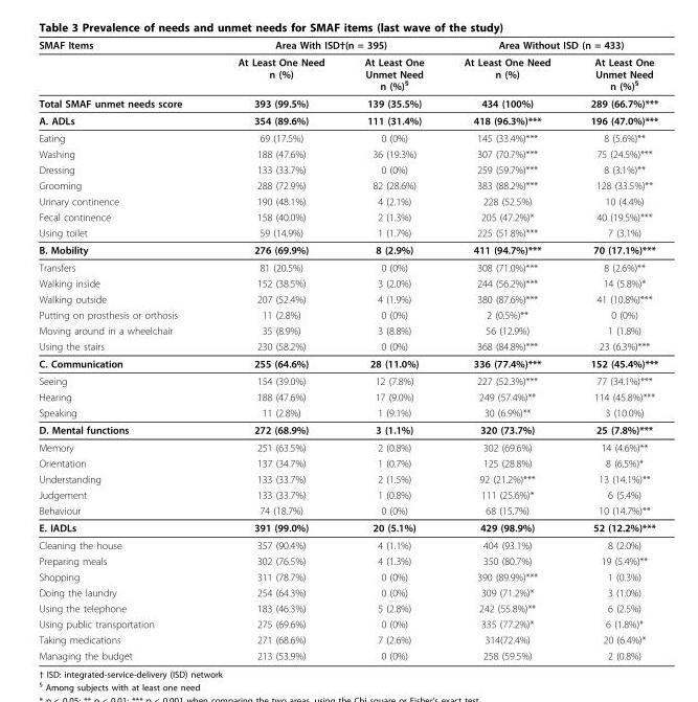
<table><thead><tr><td rowspan="2">SMAF Items</td><td colspan="2">Area With ISD†(n = 395)</td><td colspan="2">Area Without ISD (n = 433)</td></tr><tr><td>At Least One Need n (%)</td><td>At Least One Unmet Need n (%)<sup>§</sup></td><td>At Least One Need n (%)</td><td>At Least One Unmet Need n (%)<sup>§</sup></td></tr></thead><tbody><tr><td>Total SMAF unmet needs score</td><td>393 (99.5%)</td><td>139 (35.5%)</td><td>434 (100%)</td><td>289 (66.7%)***</td></tr><tr><td>A. ADLs</td><td>354 (89.6%)</td><td>111 (31.4%)</td><td>418 (96.3%)***</td><td>196 (47.0%)***</td></tr><tr><td>Eating</td><td>69 (17.5%)</td><td>0 (0%)</td><td>145 (33.4%)***</td><td>8 (5.6%)**</td></tr><tr><td>Washing</td><td>188 (47.6%)</td><td>36 (19.3%)</td><td>307 (70.7%)***</td><td>75 (24.5%)***</td></tr><tr><td>Dressing</td><td>133 (33.7%)</td><td>0 (0%)</td><td>259 (59.7%)***</td><td>8 (3.1%)**</td></tr><tr><td>Grooming</td><td>288 (72.9%)</td><td>82 (28.6%)</td><td>383 (88.2%)***</td><td>128 (33.5%)**</td></tr><tr><td>Urinary continence</td><td>190 (48.1%)</td><td>4 (2.1%)</td><td>228 (52.5%)</td><td>10 (4.4%)</td></tr><tr><td>Fecal continence</td><td>158 (40.0%)</td><td>2 (1.3%)</td><td>205 (47.2%)*</td><td>40 (19.5%)***</td></tr><tr><td>Using toilet</td><td>59 (14.9%)</td><td>1 (1.7%)</td><td>225 (51.8%)***</td><td>7 (3.1%)</td></tr><tr><td>B. Mobility</td><td>276 (69.9%)</td><td>8 (2.9%)</td><td>411 (94.7%)***</td><td>70 (17.1%)***</td></tr><tr><td>Transfers</td><td>81 (20.5%)</td><td>0 (0%)</td><td>308 (71.0%)***</td><td>8 (2.6%)**</td></tr><tr><td>Walking inside</td><td>152 (38.5%)</td><td>3 (2.0%)</td><td>244 (56.2%)***</td><td>14 (5.8%)*</td></tr><tr><td>Walking outside</td><td>207 (52.4%)</td><td>4 (1.9%)</td><td>380 (87.6%)***</td><td>41 (10.8%)***</td></tr><tr><td>Putting on prosthesis or orthosis</td><td>11 (2.8%)</td><td>0 (0%)</td><td>2 (0.5%)**</td><td>0 (0%)</td></tr><tr><td>Moving around in a wheelchair</td><td>35 (8.9%)</td><td>3 (8.8%)</td><td>56 (12.9%)</td><td>1 (1.8%)</td></tr><tr><td>Using the stairs</td><td>230 (58.2%)</td><td>0 (0%)</td><td>368 (84.8%)***</td><td>23 (6.3%)***</td></tr><tr><td>C. Communication</td><td>255 (64.6%)</td><td>28 (11.0%)</td><td>336 (77.4%)***</td><td>152 (45.4%)***</td></tr><tr><td>Seeing</td><td>154 (39.0%)</td><td>12 (7.8%)</td><td>227 (52.3%)***</td><td>77 (34.1%)***</td></tr><tr><td>Hearing</td><td>188 (47.6%)</td><td>17 (9.0%)</td><td>249 (57.4%)**</td><td>114 (45.8%)***</td></tr><tr><td>Speaking</td><td>11 (2.8%)</td><td>1 (9.1%)</td><td>30 (6.9%)**</td><td>3 (10.0%)</td></tr><tr><td>D. Mental functions</td><td>272 (68.9%)</td><td>3 (1.1%)</td><td>320 (73.7%)</td><td>25 (7.8%)***</td></tr><tr><td>Memory</td><td>251 (63.5%)</td><td>2 (0.8%)</td><td>302 (69.6%)</td><td>14 (4.6%)**</td></tr><tr><td>Orientation</td><td>137 (34.7%)</td><td>1 (0.7%)</td><td>125 (28.8%)</td><td>8 (6.5%)*</td></tr><tr><td>Understanding</td><td>133 (33.7%)</td><td>2 (1.5%)</td><td>92 (21.2%)***</td><td>13 (14.1%)**</td></tr><tr><td>Judgement</td><td>133 (33.7%)</td><td>1 (0.8%)</td><td>111 (25.6%)*</td><td>6 (5.4%)</td></tr><tr><td>Behaviour</td><td>74 (18.7%)</td><td>0 (0%)</td><td>68 (15.7%)</td><td>10 (14.7%)**</td></tr><tr><td>E. IADLs</td><td>391 (99.0%)</td><td>20 (5.1%)</td><td>429 (98.9%)</td><td>52 (12.2%)***</td></tr><tr><td>Cleaning the house</td><td>357 (90.4%)</td><td>4 (1.1%)</td><td>404 (93.1%)</td><td>8 (2.0%)</td></tr><tr><td>Preparing meals</td><td>302 (76.5%)</td><td>4 (1.3%)</td><td>350 (80.7%)</td><td>19 (5.4%)**</td></tr><tr><td>Shopping</td><td>311 (78.7%)</td><td>0 (0%)</td><td>390 (89.9%)***</td><td>1 (0.3%)</td></tr><tr><td>Doing the laundry</td><td>254 (64.3%)</td><td>0 (0%)</td><td>309 (71.2%)*</td><td>3 (1.0%)</td></tr><tr><td>Using the telephone</td><td>183 (46.3%)</td><td>5 (2.8%)</td><td>242 (55.8%)**</td><td>6 (2.5%)</td></tr><tr><td>Using public transportation</td><td>275 (69.6%)</td><td>0 (0%)</td><td>335 (77.2%)*</td><td>6 (1.8%)*</td></tr><tr><td>Taking medications</td><td>271 (68.6%)</td><td>7 (2.6%)</td><td>314(72.4%)</td><td>20 (6.4%)*</td></tr><tr><td>Managing the budget</td><td>213 (53.9%)</td><td>0 (0%)</td><td>258 (59.5%)</td><td>2 (0.8%)</td></tr></tbody></table>